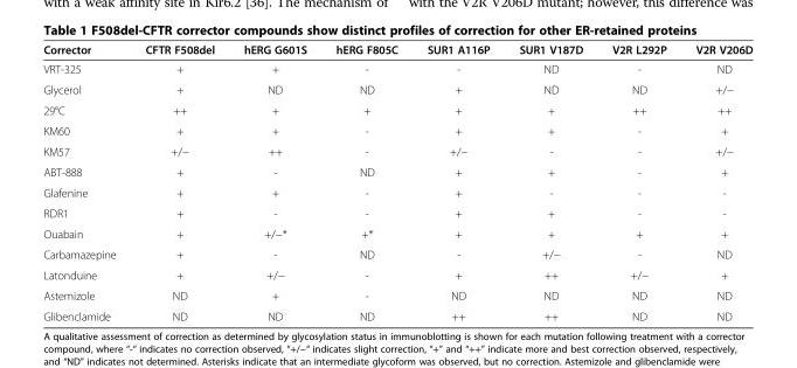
<table><thead><tr><td>Corrector</td><td>CFTR F508del</td><td>hERG G601S</td><td>hERG F805C</td><td>SUR1 A116P</td><td>SUR1 V187D</td><td>V2R L292P</td><td>V2R V206D</td></tr></thead><tbody><tr><td>VRT-325</td><td>+</td><td>+</td><td>-</td><td>-</td><td>ND</td><td>-</td><td>ND</td></tr><tr><td>Glycerol</td><td>+</td><td>ND</td><td>ND</td><td>+</td><td>ND</td><td>ND</td><td>+/−</td></tr><tr><td>29°C</td><td>++</td><td>+</td><td>+</td><td>+</td><td>+</td><td>++</td><td>++</td></tr><tr><td>KM60</td><td>+</td><td>+</td><td>-</td><td>+</td><td>+</td><td>-</td><td>+</td></tr><tr><td>KM57</td><td>+/−</td><td>++</td><td>-</td><td>+/−</td><td>-</td><td>-</td><td>+/−</td></tr><tr><td>ABT-888</td><td>+</td><td>-</td><td>ND</td><td>+</td><td>+</td><td>-</td><td>+</td></tr><tr><td>Glafenine</td><td>+</td><td>+</td><td>-</td><td>+</td><td>-</td><td>-</td><td>-</td></tr><tr><td>RDR1</td><td>+</td><td>-</td><td>-</td><td>+</td><td>+</td><td>-</td><td>-</td></tr><tr><td>Ouabain</td><td>+</td><td>+/−*</td><td>+*</td><td>+</td><td>+</td><td>+</td><td>+</td></tr><tr><td>Carbamazepine</td><td>+</td><td>-</td><td>ND</td><td>-</td><td>+/−</td><td>-</td><td>ND</td></tr><tr><td>Latonduine</td><td>+</td><td>+/−</td><td>-</td><td>+</td><td>++</td><td>+/−</td><td>+</td></tr><tr><td>Astemizole</td><td>ND</td><td>+</td><td>-</td><td>ND</td><td>ND</td><td>ND</td><td>ND</td></tr><tr><td>Glibenclamide</td><td>ND</td><td>ND</td><td>ND</td><td>++</td><td>++</td><td>ND</td><td>ND</td></tr></tbody></table>